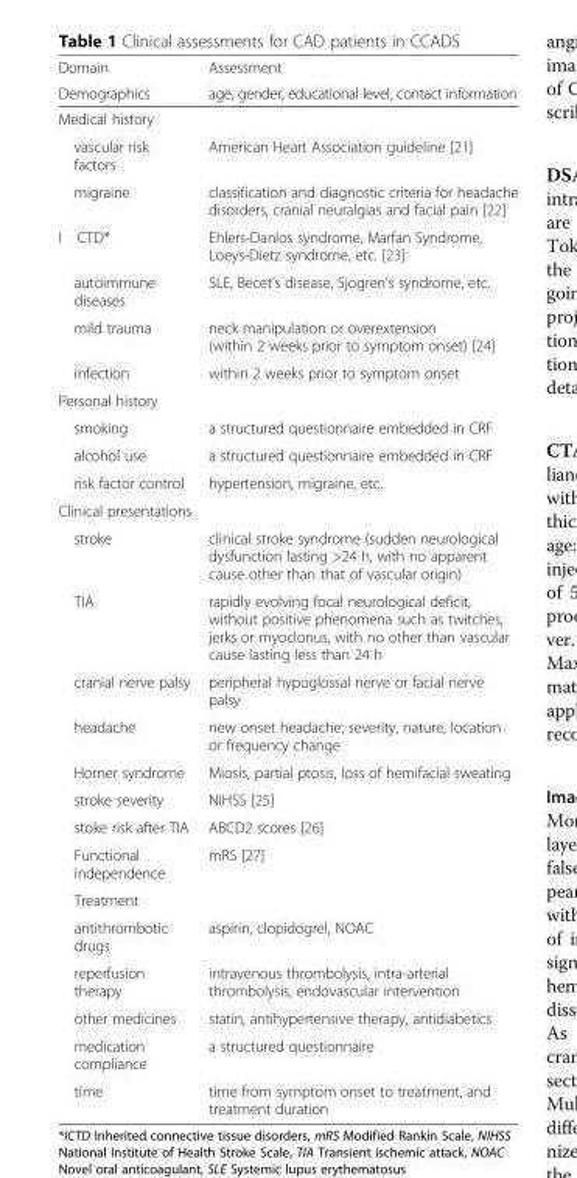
<table><thead><tr><td rowspan="2">Domain Demographics</td><td rowspan="2">Assessment age, gender, educational level, contact information</td></tr><tr></tr></thead><tbody><tr><td colspan="2">Medical history</td></tr><tr><td>vascular risk factors</td><td>American Heart Association guideline [21]</td></tr><tr><td>migraine</td><td>classification and diagnostic criteria for headache disorders, cranial neuralgias and facial pain [22]</td></tr><tr><td>I CTD*</td><td>Ehlers-Danlos syndrome, Marfan Syndrome, Loeys-Dietz syndrome, etc. [23]</td></tr><tr><td>autoimmune diseases</td><td>SLE, Becet’s disease, Sjogren’s syndrome, etc.</td></tr><tr><td>mild trauma</td><td>neck manipulation or overextension (within 2 weeks prior to symptom onset) [24]</td></tr><tr><td>infection</td><td>within 2 weeks prior to symptom onset</td></tr><tr><td colspan="2">Personal history</td></tr><tr><td>smoking</td><td>a structured questionnaire embedded in CRF</td></tr><tr><td>alcohol use</td><td>a structured questionnaire embedded in CRF</td></tr><tr><td>risk factor control</td><td>hypertension, migraine, etc.</td></tr><tr><td colspan="2">Clinical presentations</td></tr><tr><td>stroke</td><td>clinical stroke syndrome (sudden neurological dysfunction lasting &gt;24 h, with no apparent cause other than that of vascular origin)</td></tr><tr><td>TIA</td><td>rapidly evolving focal neurological deficit, without positive phenomena such as twitches, jerks or myoclonus, with no other than vascular cause lasting less than 24 h</td></tr><tr><td>cranial nerve palsy</td><td>peripheral hypoglossal nerve or facial nerve palsy</td></tr><tr><td>headache</td><td>new onset headache; severity, nature, location or frequency change</td></tr><tr><td>Horner syndrome</td><td>Miosis, partial ptosis, loss of hemifacial sweating</td></tr><tr><td>stroke severity</td><td>NIHSS [25]</td></tr><tr><td>stoke risk after TIA</td><td>ABCD2 scores [26]</td></tr><tr><td>Functional independence</td><td>mRS [27]</td></tr><tr><td colspan="2">Treatment</td></tr><tr><td>antithrombotic drugs</td><td>aspirin, clopidogrel, NOAC</td></tr><tr><td>reperfusion therapy</td><td>intravenous thrombolysis, intra-arterial thrombolysis, endovascular intervention</td></tr><tr><td>other medicines</td><td>statin, antihypertensive therapy, antidiabetics</td></tr><tr><td>medication compliance</td><td>a structured questionnaire</td></tr><tr><td>time</td><td>time from symptom onset to treatment, and treatment duration</td></tr></tbody></table>